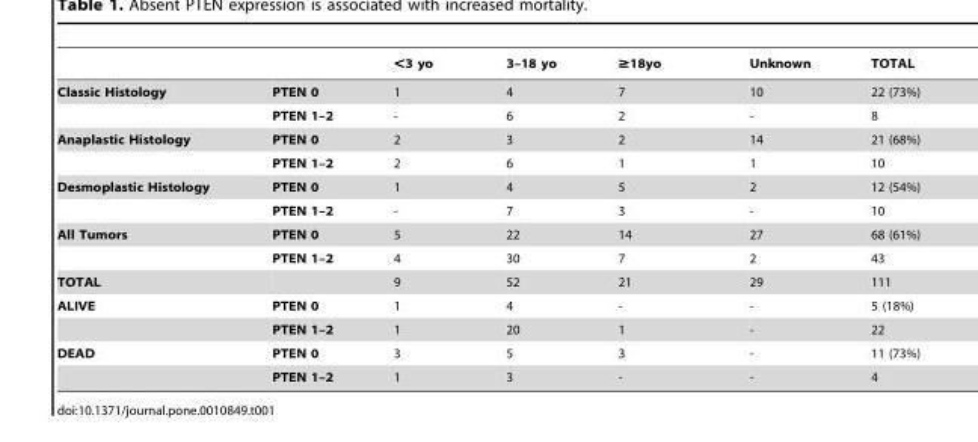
<table><thead><tr><td></td><td></td><td>&lt;3 yo</td><td>3–18 yo</td><td>≥18yo</td><td>Unknown</td><td>TOTAL</td></tr></thead><tbody><tr><td rowspan="2">Classic Histology</td><td>PTEN 0</td><td>1</td><td>4</td><td>7</td><td>10</td><td>22 (73%)</td></tr><tr><td>PTEN 1–2</td><td>-</td><td>6</td><td>2</td><td>-</td><td>8</td></tr><tr><td rowspan="2">Anaplastic Histology</td><td>PTEN 0</td><td>2</td><td>3</td><td>2</td><td>14</td><td>21 (68%)</td></tr><tr><td>PTEN 1–2</td><td>2</td><td>6</td><td>1</td><td>1</td><td>10</td></tr><tr><td rowspan="2">Desmoplastic Histology</td><td>PTEN 0</td><td>1</td><td>4</td><td>5</td><td>2</td><td>12 (54%)</td></tr><tr><td>PTEN 1–2</td><td>-</td><td>7</td><td>3</td><td>-</td><td>10</td></tr><tr><td rowspan="2">All Tumors</td><td>PTEN 0</td><td>5</td><td>22</td><td>14</td><td>27</td><td>68 (61%)</td></tr><tr><td>PTEN 1–2</td><td>4</td><td>30</td><td>7</td><td>2</td><td>43</td></tr><tr><td>TOTAL</td><td></td><td>9</td><td>52</td><td>21</td><td>29</td><td>111</td></tr><tr><td rowspan="2">ALIVE</td><td>PTEN 0</td><td>1</td><td>4</td><td>-</td><td>-</td><td>5 (18%)</td></tr><tr><td>PTEN 1–2</td><td>1</td><td>20</td><td>1</td><td>-</td><td>22</td></tr><tr><td rowspan="2">DEAD</td><td>PTEN 0</td><td>3</td><td>5</td><td>3</td><td>-</td><td>11 (73%)</td></tr><tr><td>PTEN 1–2</td><td>1</td><td>3</td><td>-</td><td>-</td><td>4</td></tr></tbody></table>